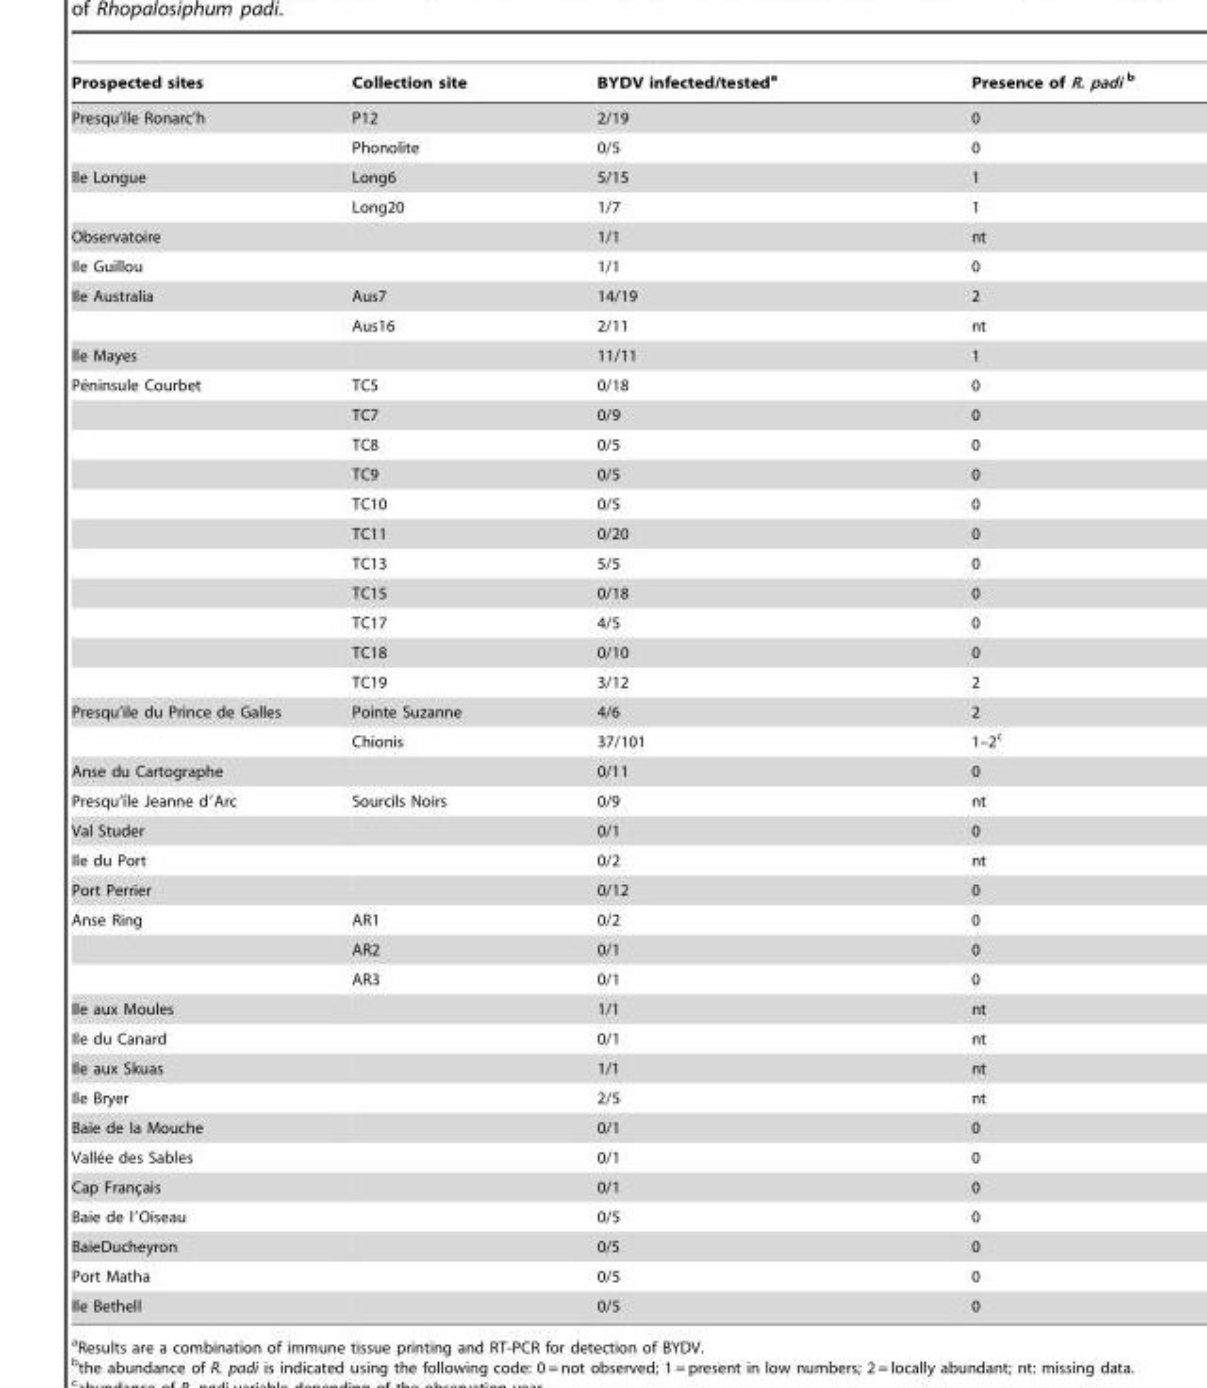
<table><thead><tr><td>Prospected sites</td><td>Collection site</td><td>BYDV infected/tested<sup>a</sup></td><td>Presence of R. padi b</td></tr></thead><tbody><tr><td rowspan="2">Presqu’ıˆle Ronarc’h</td><td>P12</td><td>2/19</td><td>0</td></tr><tr><td>Phonolite</td><td>0/5</td><td>0</td></tr><tr><td rowspan="2">Ile Longue</td><td>Long6</td><td>5/15</td><td>1</td></tr><tr><td>Long20</td><td>1/7</td><td>1</td></tr><tr><td>Observatoire</td><td></td><td>1/1</td><td>nt</td></tr><tr><td>Ile Guillou</td><td></td><td>1/1</td><td>0</td></tr><tr><td rowspan="2">Ile Australia</td><td>Aus7</td><td>14/19</td><td>2</td></tr><tr><td>Aus16</td><td>2/11</td><td>nt</td></tr><tr><td>Ile Mayes</td><td></td><td>11/11</td><td>1</td></tr><tr><td rowspan="11">Pe´ninsule Courbet</td><td>TC5</td><td>0/18</td><td>0</td></tr><tr><td>TC7</td><td>0/9</td><td>0</td></tr><tr><td>TC8</td><td>0/5</td><td>0</td></tr><tr><td>TC9</td><td>0/5</td><td>0</td></tr><tr><td>TC10</td><td>0/5</td><td>0</td></tr><tr><td>TC11</td><td>0/20</td><td>0</td></tr><tr><td>TC13</td><td>5/5</td><td>0</td></tr><tr><td>TC15</td><td>0/18</td><td>0</td></tr><tr><td>TC17</td><td>4/5</td><td>0</td></tr><tr><td>TC18</td><td>0/10</td><td>0</td></tr><tr><td>TC19</td><td>3/12</td><td>2</td></tr><tr><td rowspan="2">Presqu’ile du Prince de Galles</td><td>Pointe Suzanne</td><td>4/6</td><td>2</td></tr><tr><td>Chionis</td><td>37/101</td><td>1–2<sup>c</sup></td></tr><tr><td>Anse du Cartographe</td><td></td><td>0/11</td><td>0</td></tr><tr><td>Presqu’ıˆle Jeanne d9Arc</td><td>Sourcils Noirs</td><td>0/9</td><td>nt</td></tr><tr><td>Val Studer</td><td></td><td>0/1</td><td>0</td></tr><tr><td>Ile du Port</td><td></td><td>0/2</td><td>nt</td></tr><tr><td>Port Perrier</td><td></td><td>0/12</td><td>0</td></tr><tr><td rowspan="3">Anse Ring</td><td>AR1</td><td>0/2</td><td>0</td></tr><tr><td>AR2</td><td>0/1</td><td>0</td></tr><tr><td>AR3</td><td>0/1</td><td>0</td></tr><tr><td>Ile aux Moules</td><td></td><td>1/1</td><td>nt</td></tr><tr><td>Ile du Canard</td><td></td><td>0/1</td><td>nt</td></tr><tr><td>Ile aux Skuas</td><td></td><td>1/1</td><td>nt</td></tr><tr><td>Ile Bryer</td><td></td><td>2/5</td><td>nt</td></tr><tr><td>Baie de la Mouche</td><td></td><td>0/1</td><td>0</td></tr><tr><td>Valle´e des Sables</td><td></td><td>0/1</td><td>0</td></tr><tr><td>Cap Franc¸ais</td><td></td><td>0/1</td><td>0</td></tr><tr><td>Baie de l′Oiseau</td><td></td><td>0/5</td><td>0</td></tr><tr><td>BaieDucheyron</td><td></td><td>0/5</td><td>0</td></tr><tr><td>Port Matha</td><td></td><td>0/5</td><td>0</td></tr><tr><td>Ile Bethell</td><td></td><td>0/5</td><td>0</td></tr></tbody></table>